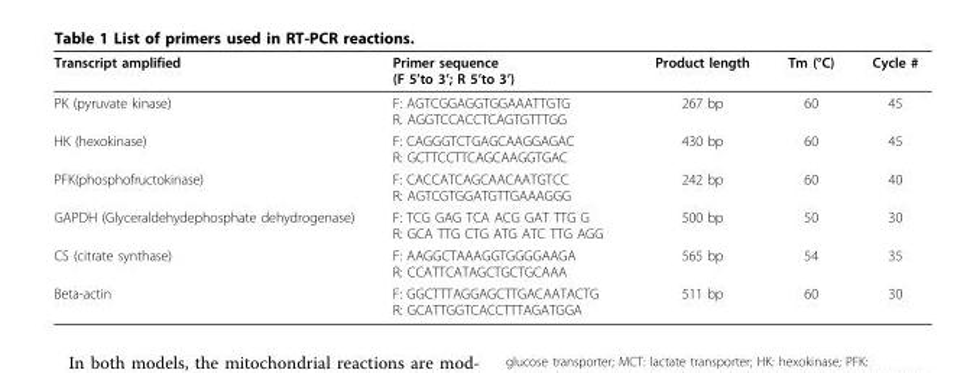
<table><thead><tr><td>Transcript amplified</td><td>Primer sequence (F 5’to 3’; R 5’to 3’)</td><td>Product length</td><td>Tm (°C)</td><td>Cycle #</td></tr></thead><tbody><tr><td>PK (pyruvate kinase)</td><td>F: AGTCGGAGGTGGAAATTGTG R. AGGTCCACCTCAGTGTTTGG</td><td>267 bp</td><td>60</td><td>45</td></tr><tr><td>HK (hexokinase)</td><td>F: CAGGGTCTGAGCAAGGAGAC R: GCTTCCTTCAGCAAGGTGAC</td><td>430 bp</td><td>60</td><td>45</td></tr><tr><td>PFK(phosphofructokinase)</td><td>F: CACCATCAGCAACAATGTCC R: AGTCGTGGATGTTGAAAGGG</td><td>242 bp</td><td>60</td><td>40</td></tr><tr><td>GAPDH (Glyceraldehydephosphate dehydrogenase)</td><td>F: TCG GAG TCA ACG GAT TTG G R: GCA TTG CTG ATG ATC TTG AGG</td><td>500 bp</td><td>50</td><td>30</td></tr><tr><td>CS (citrate synthase)</td><td>F: AAGGCTAAAGGTGGGGAAGA R: CCATTCATAGCTGCTGCAAA</td><td>565 bp</td><td>54</td><td>35</td></tr><tr><td>Beta-actin</td><td>F: GGCTTTAGGAGCTTGACAATACTG R: GCATTGGTCACCTTTAGATGGA</td><td>511 bp</td><td>60</td><td>30</td></tr></tbody></table>